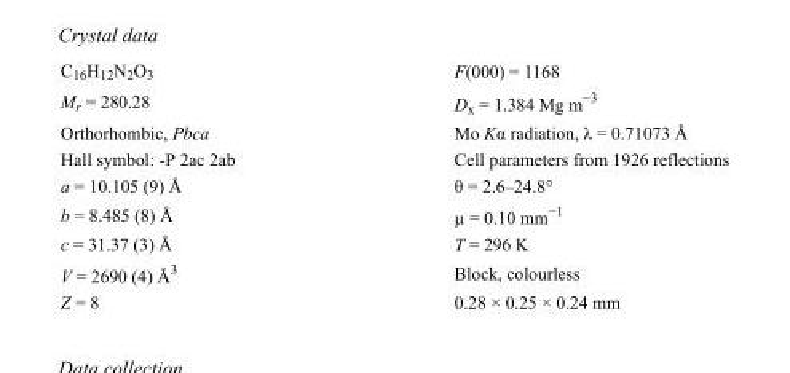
<table><tbody><tr><td>C<sub>16</sub>H<sub>12</sub>N<sub>2</sub>O<sub>3</sub></td><td>F(000) = 1168</td></tr><tr><td>M<sub>r</sub> = 280.28</td><td>D<sub>x</sub> = 1.384 Mg m<sup>−3</sup></td></tr><tr><td>Orthorhombic, Pbca</td><td>Mo Kα radiation, λ = 0.71073 Å</td></tr><tr><td>Hall symbol: -P 2ac 2ab</td><td>Cell parameters from 1926 reflections</td></tr><tr><td>a = 10.105 (9) Å</td><td>θ = 2.6–24.8°</td></tr><tr><td>b = 8.485 (8) Å</td><td>µ = 0.10 mm<sup>−1</sup></td></tr><tr><td>c = 31.37 (3) Å</td><td>T = 296 K</td></tr><tr><td>V = 2690 (4) Å<sup>3</sup></td><td>Block, colourless</td></tr><tr><td>Z = 8</td><td>0.28 × 0.25 × 0.24 mm</td></tr></tbody></table>